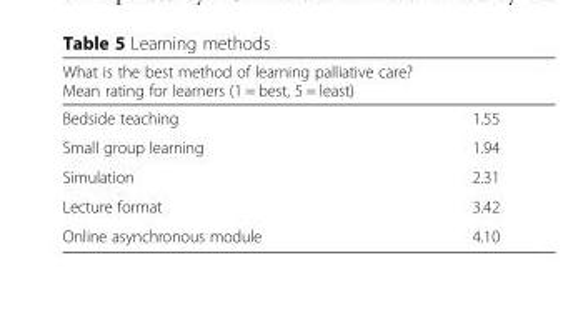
<table><thead><tr><td colspan="2">What is the best method of learning palliative care? Mean rating for learners (1 = best, 5 = least)</td></tr><tr><td>Bedside teaching</td><td>1.55</td></tr></thead><tbody><tr><td>Small group learning</td><td>1.94</td></tr><tr><td>Simulation</td><td>2.31</td></tr><tr><td>Lecture format</td><td>3.42</td></tr><tr><td>Online asynchronous module</td><td>4.10</td></tr></tbody></table>